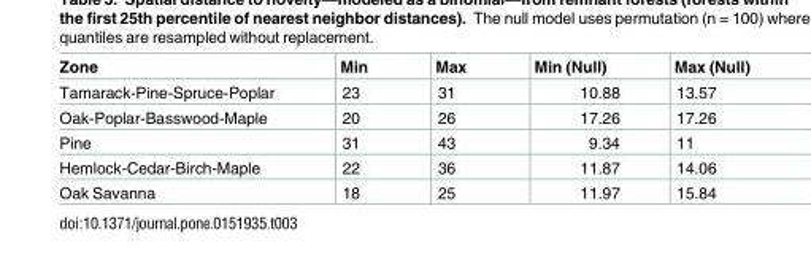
<table><thead><tr><td>Zone</td><td>Min</td><td>Max</td><td>Min (Null)</td><td>Max (Null)</td></tr></thead><tbody><tr><td>Tamarack-Pine-Spruce-Poplar</td><td>23</td><td>31</td><td>10.88</td><td>13.57</td></tr><tr><td>Oak-Poplar-Basswood-Maple</td><td>20</td><td>26</td><td>17.26</td><td>17.26</td></tr><tr><td>Pine</td><td>31</td><td>43</td><td>9.34</td><td>11</td></tr><tr><td>Hemlock-Cedar-Birch-Maple</td><td>22</td><td>36</td><td>11.87</td><td>14.06</td></tr><tr><td>Oak Savanna</td><td>18</td><td>25</td><td>11.97</td><td>15.84</td></tr></tbody></table>